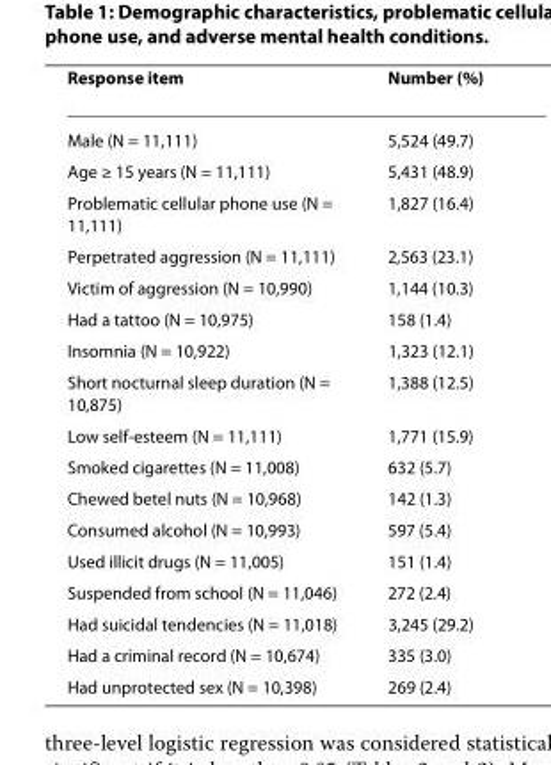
<table><thead><tr><td>Response item</td><td>Number (%)</td></tr></thead><tbody><tr><td>Male (N = 11,111)</td><td>5,524 (49.7)</td></tr><tr><td>Age ≥ 15 years (N = 11,111)</td><td>5,431 (48.9)</td></tr><tr><td>Problematic cellular phone use (N = 11,111)</td><td>1,827 (16.4)</td></tr><tr><td>Perpetrated aggression (N = 11,111)</td><td>2,563 (23.1)</td></tr><tr><td>Victim of aggression (N = 10,990)</td><td>1,144 (10.3)</td></tr><tr><td>Had a tattoo (N = 10,975)</td><td>158 (1.4)</td></tr><tr><td>Insomnia (N = 10,922)</td><td>1,323 (12.1)</td></tr><tr><td>Short nocturnal sleep duration (N = 10,875)</td><td>1,388 (12.5)</td></tr><tr><td>Low self-esteem (N = 11,111)</td><td>1,771 (15.9)</td></tr><tr><td>Smoked cigarettes (N = 11,008)</td><td>632 (5.7)</td></tr><tr><td>Chewed betel nuts (N = 10,968)</td><td>142 (1.3)</td></tr><tr><td>Consumed alcohol (N = 10,993)</td><td>597 (5.4)</td></tr><tr><td>Used illicit drugs (N = 11,005)</td><td>151 (1.4)</td></tr><tr><td>Suspended from school (N = 11,046)</td><td>272 (2.4)</td></tr><tr><td>Had suicidal tendencies (N = 11,018)</td><td>3,245 (29.2)</td></tr><tr><td>Had a criminal record (N = 10,674)</td><td>335 (3.0)</td></tr><tr><td>Had unprotected sex (N = 10,398)</td><td>269 (2.4)</td></tr></tbody></table>